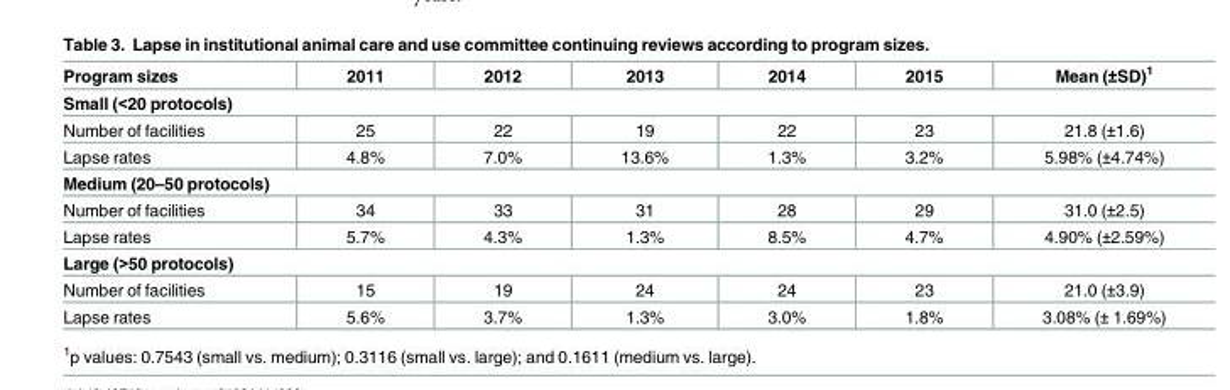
<table><thead><tr><td>Program sizes</td><td>2011</td><td>2012</td><td>2013</td><td>2014</td><td>2015</td><td>Mean (±SD)<sup>1</sup></td></tr></thead><tbody><tr><td colspan="7">Small (&lt;20 protocols)</td></tr><tr><td>Number of facilities</td><td>25</td><td>22</td><td>19</td><td>22</td><td>23</td><td>21.8 (±1.6)</td></tr><tr><td>Lapse rates</td><td>4.8%</td><td>7.0%</td><td>13.6%</td><td>1.3%</td><td>3.2%</td><td>5.98% (±4.74%)</td></tr><tr><td colspan="7">Medium (20–50 protocols)</td></tr><tr><td>Number of facilities</td><td>34</td><td>33</td><td>31</td><td>28</td><td>29</td><td>31.0 (±2.5)</td></tr><tr><td>Lapse rates</td><td>5.7%</td><td>4.3%</td><td>1.3%</td><td>8.5%</td><td>4.7%</td><td>4.90% (±2.59%)</td></tr><tr><td colspan="7">Large (&gt;50 protocols)</td></tr><tr><td>Number of facilities</td><td>15</td><td>19</td><td>24</td><td>24</td><td>23</td><td>21.0 (±3.9)</td></tr><tr><td>Lapse rates</td><td>5.6%</td><td>3.7%</td><td>1.3%</td><td>3.0%</td><td>1.8%</td><td>3.08% (± 1.69%)</td></tr></tbody></table>